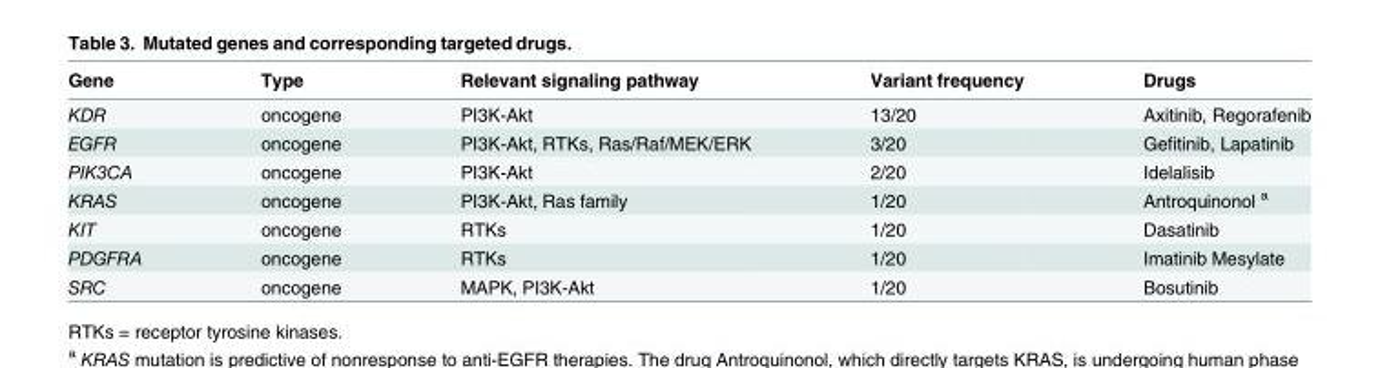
<table><thead><tr><td>Gene</td><td>Type</td><td>Relevant signaling pathway</td><td>Variant frequency</td><td>Drugs</td></tr></thead><tbody><tr><td>KDR</td><td>oncogene</td><td>PI3K-Akt</td><td>13/20</td><td>Axitinib, Regorafenib</td></tr><tr><td>EGFR</td><td>oncogene</td><td>PI3K-Akt, RTKs, Ras/Raf/MEK/ERK</td><td>3/20</td><td>Gefitinib, Lapatinib</td></tr><tr><td>PIK3CA</td><td>oncogene</td><td>PI3K-Akt</td><td>2/20</td><td>Idelalisib</td></tr><tr><td>KRAS</td><td>oncogene</td><td>PI3K-Akt, Ras family</td><td>1/20</td><td>Antroquinonol <sup>a</sup></td></tr><tr><td>KIT</td><td>oncogene</td><td>RTKs</td><td>1/20</td><td>Dasatinib</td></tr><tr><td>PDGFRA</td><td>oncogene</td><td>RTKs</td><td>1/20</td><td>Imatinib Mesylate</td></tr><tr><td>SRC</td><td>oncogene</td><td>MAPK, PI3K-Akt</td><td>1/20</td><td>Bosutinib</td></tr></tbody></table>